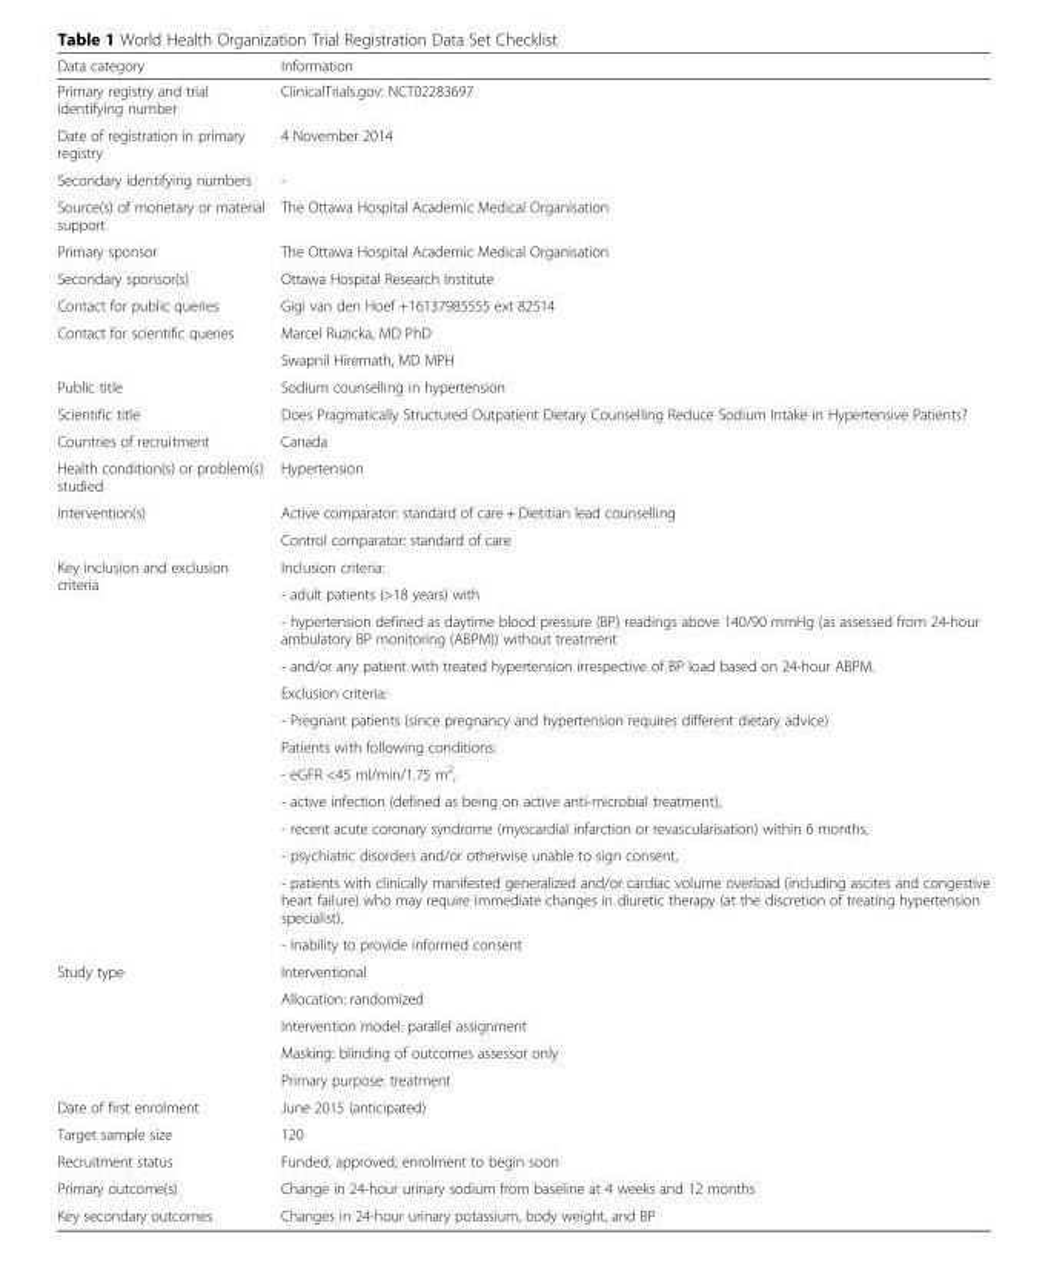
<table><thead><tr><td>Data category</td><td>Information</td></tr></thead><tbody><tr><td>Primary registry and trial identifying number</td><td>ClinicalTrials.gov: NCT02283697</td></tr><tr><td>Date of registration in primary registry</td><td>4 November 2014</td></tr><tr><td>Secondary identifying numbers</td><td>-</td></tr><tr><td>Source(s) of monetary or material support</td><td>The Ottawa Hospital Academic Medical Organisation</td></tr><tr><td>Primary sponsor</td><td>The Ottawa Hospital Academic Medical Organisation</td></tr><tr><td>Secondary sponsor(s)</td><td>Ottawa Hospital Research Institute</td></tr><tr><td>Contact for public queries</td><td>Gigi van den Hoef +16137985555 ext 82514</td></tr><tr><td rowspan="2">Contact for scientific queries</td><td>Marcel Ruzicka, MD PhD</td></tr><tr><td>Swapnil Hiremath, MD MPH</td></tr><tr><td>Public title</td><td>Sodium counselling in hypertension</td></tr><tr><td>Scientific title</td><td>Does Pragmatically Structured Outpatient Dietary Counselling Reduce Sodium Intake in Hypertensive Patients?</td></tr><tr><td>Countries of recruitment</td><td>Canada</td></tr><tr><td>Health condition(s) or problem(s) studied</td><td>Hypertension</td></tr><tr><td rowspan="2">Intervention(s)</td><td>Active comparator: standard of care + Dietitian lead counselling</td></tr><tr><td>Control comparator: standard of care</td></tr><tr><td rowspan="13">Key inclusion and exclusion criteria</td><td>Inclusion criteria:</td></tr><tr><td>- adult patients (&gt;18 years) with</td></tr><tr><td>- hypertension defined as daytime blood pressure (BP) readings above 140/90 mmHg (as assessed from 24-hour ambulatory BP monitoring (ABPM)) without treatment</td></tr><tr><td>- and/or any patient with treated hypertension irrespective of BP load based on 24-hour ABPM.</td></tr><tr><td>Exclusion criteria:</td></tr><tr><td>- Pregnant patients (since pregnancy and hypertension requires different dietary advice)</td></tr><tr><td>Patients with following conditions:</td></tr><tr><td>- eGFR &lt;45 ml/min/1.75 m<sup>2</sup>,</td></tr><tr><td>- active infection (defined as being on active anti-microbial treatment),</td></tr><tr><td>- recent acute coronary syndrome (myocardial infarction or revascularisation) within 6 months,</td></tr><tr><td>- psychiatric disorders and/or otherwise unable to sign consent,</td></tr><tr><td>- patients with clinically manifested generalized and/or cardiac volume overload (including ascites and congestive heart failure) who may require immediate changes in diuretic therapy (at the discretion of treating hypertension specialist).</td></tr><tr><td>- Inability to provide informed consent</td></tr><tr><td rowspan="5">Study type</td><td>Interventional</td></tr><tr><td>Allocation: randomized</td></tr><tr><td>Intervention model: parallel assignment</td></tr><tr><td>Masking: blinding of outcomes assessor only</td></tr><tr><td>Primary purpose: treatment</td></tr><tr><td>Date of first enrolment</td><td>June 2015 (anticipated)</td></tr><tr><td>Target sample size</td><td>120</td></tr><tr><td>Recruitment status</td><td>Funded, approved, enrolment to begin soon</td></tr><tr><td>Primary outcome(s)</td><td>Change in 24-hour urinary sodium from baseline at 4 weeks and 12 months</td></tr><tr><td>Key secondary outcomes</td><td>Changes in 24-hour urinary potassium, body weight, and BP</td></tr></tbody></table>